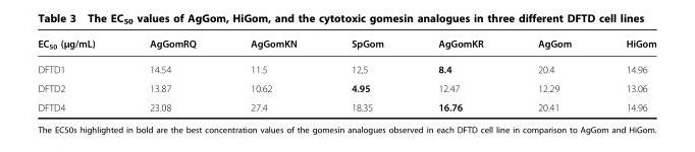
<table><thead><tr><td>EC<sub>50</sub> (µg/mL)</td><td>AgGomRQ</td><td>AgGomKN</td><td>SpGom</td><td>AgGomKR</td><td>AgGom</td><td>HiGom</td></tr></thead><tbody><tr><td>DFTD1</td><td>14.54</td><td>11.5</td><td>12,5</td><td>8.4</td><td>20.4</td><td>14.96</td></tr><tr><td>DFTD2</td><td>13.87</td><td>10.62</td><td>4.95</td><td>12.47</td><td>12.29</td><td>13.06</td></tr><tr><td>DFTD4</td><td>23.08</td><td>27.4</td><td>18.35</td><td>16.76</td><td>20.41</td><td>14.96</td></tr></tbody></table>